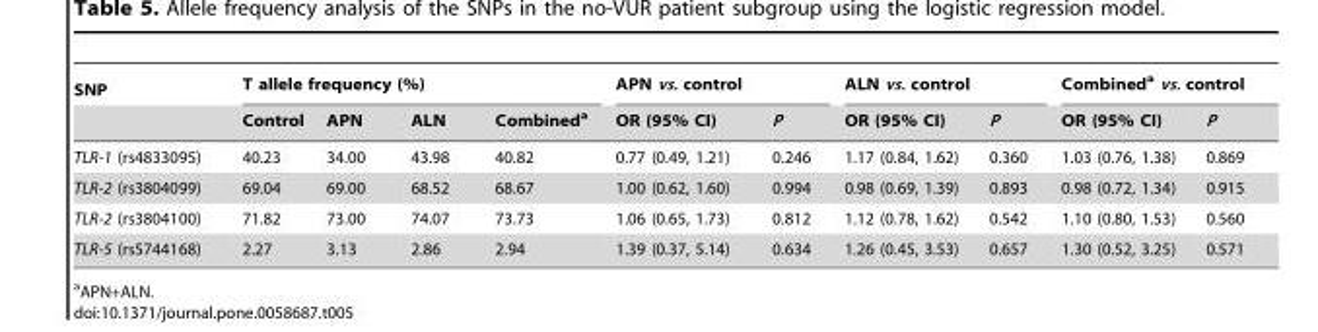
<table><thead><tr><td rowspan="2">SNP</td><td colspan="4">T allele frequency (%)</td><td colspan="2">APN vs. control</td><td colspan="2">ALN vs. control</td><td colspan="2">Combined<sup>a</sup> vs. control</td></tr><tr><td>Control</td><td>APN</td><td>ALN</td><td>Combined<sup>a</sup></td><td>OR (95% CI)</td><td>P</td><td>OR (95% CI)</td><td>P</td><td>OR (95% CI)</td><td>P</td></tr></thead><tbody><tr><td>TLR-1 (rs4833095)</td><td>40.23</td><td>34.00</td><td>43.98</td><td>40.82</td><td>0.77 (0.49, 1.21)</td><td>0.246</td><td>1.17 (0.84, 1.62)</td><td>0.360</td><td>1.03 (0.76, 1.38)</td><td>0.869</td></tr><tr><td>TLR-2 (rs3804099)</td><td>69.04</td><td>69.00</td><td>68.52</td><td>68.67</td><td>1.00 (0.62, 1.60)</td><td>0.994</td><td>0.98 (0.69, 1.39)</td><td>0.893</td><td>0.98 (0.72, 1.34)</td><td>0.915</td></tr><tr><td>TLR-2 (rs3804100)</td><td>71.82</td><td>73.00</td><td>74.07</td><td>73.73</td><td>1.06 (0.65, 1.73)</td><td>0.812</td><td>1.12 (0.78, 1.62)</td><td>0.542</td><td>1.10 (0.80, 1.53)</td><td>0.560</td></tr><tr><td>TLR-5 (rs5744168)</td><td>2.27</td><td>3.13</td><td>2.86</td><td>2.94</td><td>1.39 (0.37, 5.14)</td><td>0.634</td><td>1.26 (0.45, 3.53)</td><td>0.657</td><td>1.30 (0.52, 3.25)</td><td>0.571</td></tr></tbody></table>